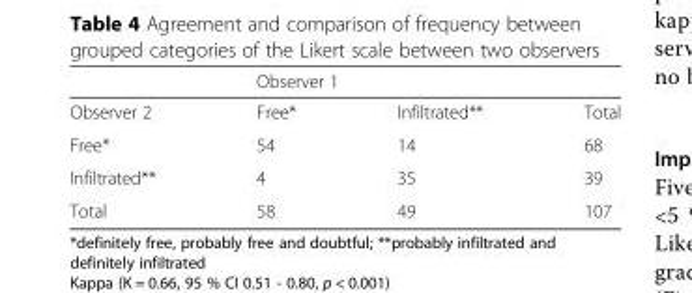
<table><thead><tr><td rowspan="2">Observer 2</td><td colspan="3">Observer 1</td></tr><tr><td>Free*</td><td>Infiltrated**</td><td>Total</td></tr></thead><tbody><tr><td>Free*</td><td>54</td><td>14</td><td>68</td></tr><tr><td>Infiltrated**</td><td>4</td><td>35</td><td>39</td></tr><tr><td>Total</td><td>58</td><td>49</td><td>107</td></tr></tbody></table>